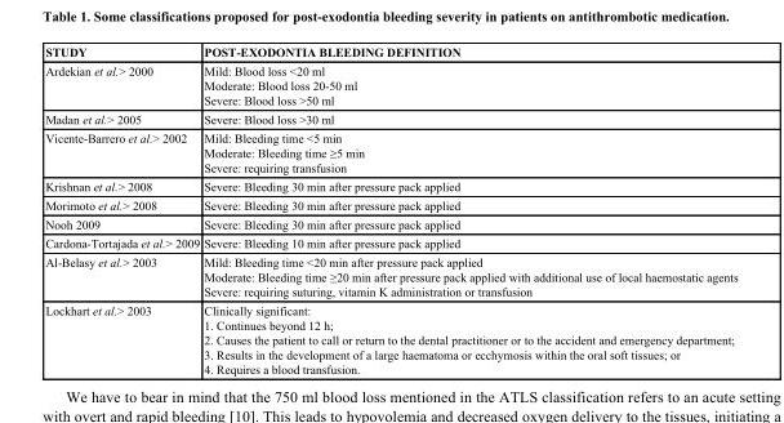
<table><thead><tr><td>STUDY</td><td>POST-EXODONTIA BLEEDING DEFINITION</td></tr></thead><tbody><tr><td>Ardekian et al.&gt; 2000</td><td>Mild: Blood loss &lt;20 ml Moderate: Blood loss 20-50 ml Severe: Blood loss &gt;50 ml</td></tr><tr><td>Madan et al.&gt; 2005</td><td>Severe: Blood loss &gt;30 ml</td></tr><tr><td>Vicente-Barrero et al.&gt; 2002</td><td>Mild: Bleeding time &lt;5 min Moderate: Bleeding time ≥5 min Severe: requiring transfusion</td></tr><tr><td>Krishnan et al.&gt; 2008</td><td>Severe: Bleeding 30 min after pressure pack applied</td></tr><tr><td>Morimoto et al.&gt; 2008</td><td>Severe: Bleeding 30 min after pressure pack applied</td></tr><tr><td>Nooh 2009</td><td>Severe: Bleeding 30 min after pressure pack applied</td></tr><tr><td>Cardona-Tortajada et al.&gt; 2009</td><td>Severe: Bleeding 10 min after pressure pack applied</td></tr><tr><td>Al-Belasy et al.&gt; 2003</td><td>Mild: Bleeding time &lt;20 min after pressure pack applied Moderate: Bleeding time ≥20 min after pressure pack applied with additional use of local haemostatic agents Severe: requiring suturing, vitamin K administration or transfusion</td></tr><tr><td>Lockhart et al.&gt; 2003</td><td>Clinically significant: 1. Continues beyond 12 h; 2. Causes the patient to call or return to the dental practitioner or to the accident and emergency department; 3. Results in the development of a large haematoma or ecchymosis within the oral soft tissues; or 4. Requires a blood transfusion.</td></tr></tbody></table>